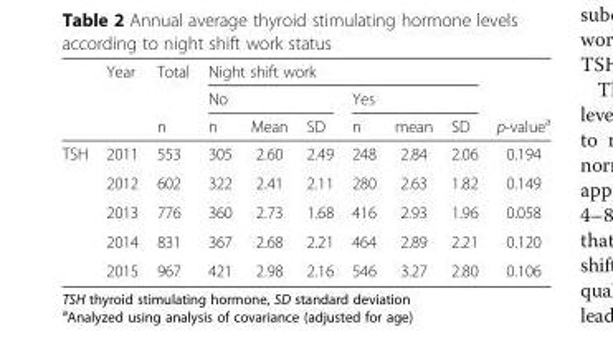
<table><thead><tr><td rowspan="3"></td><td rowspan="3">Year</td><td rowspan="3">Total n</td><td colspan="6">Night shift work</td><td rowspan="3">p-value<sup>a</sup></td></tr><tr><td colspan="3">No</td><td colspan="3">Yes</td></tr><tr><td>n</td><td>Mean</td><td>SD</td><td>n</td><td>mean</td><td>SD</td></tr></thead><tbody><tr><td rowspan="5">TSH</td><td>2011</td><td>553</td><td>305</td><td>2.60</td><td>2.49</td><td>248</td><td>2.84</td><td>2.06</td><td>0.194</td></tr><tr><td>2012</td><td>602</td><td>322</td><td>2.41</td><td>2.11</td><td>280</td><td>2.63</td><td>1.82</td><td>0.149</td></tr><tr><td>2013</td><td>776</td><td>360</td><td>2.73</td><td>1.68</td><td>416</td><td>2.93</td><td>1.96</td><td>0.058</td></tr><tr><td>2014</td><td>831</td><td>367</td><td>2.68</td><td>2.21</td><td>464</td><td>2.89</td><td>2.21</td><td>0.120</td></tr><tr><td>2015</td><td>967</td><td>421</td><td>2.98</td><td>2.16</td><td>546</td><td>3.27</td><td>2.80</td><td>0.106</td></tr></tbody></table>